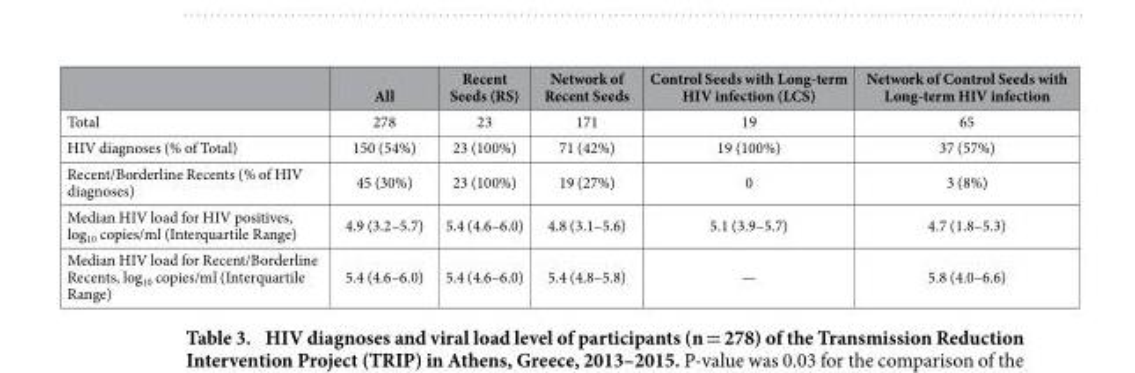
<table><thead><tr><td></td><td>All</td><td>Recent Seeds (RS)</td><td>Network of Recent Seeds</td><td>Control Seeds with Long-term HIV infection (LCS)</td><td>Network of Control Seeds with Long-term HIV infection</td></tr></thead><tbody><tr><td>Total</td><td>278</td><td>23</td><td>171</td><td>19</td><td>65</td></tr><tr><td>HIV diagnoses (% of Total)</td><td>150 (54%)</td><td>23 (100%)</td><td>71 (42%)</td><td>19 (100%)</td><td>37 (57%)</td></tr><tr><td>Recent/Borderline Recents (% of HIV diagnoses)</td><td>45 (30%)</td><td>23 (100%)</td><td>19 (27%)</td><td>0</td><td>3 (8%)</td></tr><tr><td>Median HIV load for HIV positives, log<sub>10</sub> copies/ml (Interquartile Range)</td><td>4.9 (3.2–5.7)</td><td>5.4 (4.6–6.0)</td><td>4.8 (3.1–5.6)</td><td>5.1 (3.9–5.7)</td><td>4.7 (1.8–5.3)</td></tr><tr><td>Median HIV load for Recent/Borderline Recents, log<sub>10</sub> copies/ml (Interquartile Range)</td><td>5.4 (4.6–6.0)</td><td>5.4 (4.6–6.0)</td><td>5.4 (4.8–5.8)</td><td>—</td><td>5.8 (4.0–6.6)</td></tr></tbody></table>